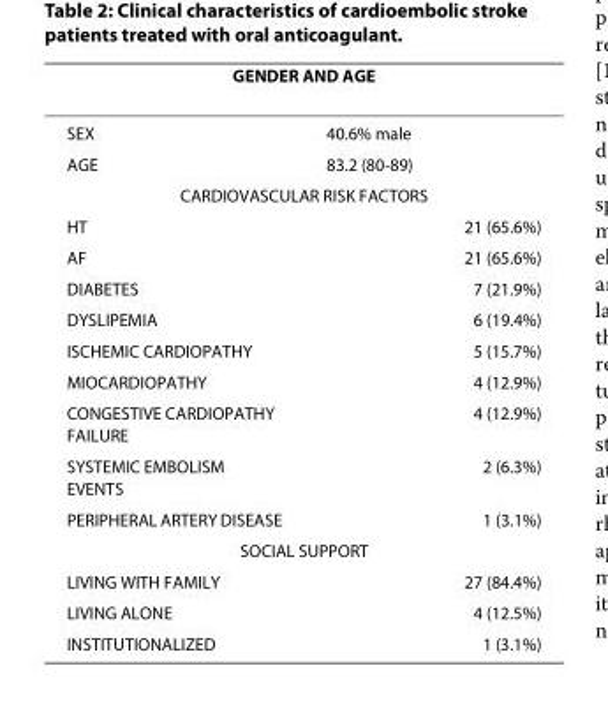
<table><thead><tr><td colspan="2">GENDER AND AGE</td></tr><tr><td>SEX</td><td>40.6% male</td></tr></thead><tbody><tr><td>AGE</td><td>83.2 (80-89)</td></tr><tr><td colspan="2">CARDIOVASCULAR RISK FACTORS</td></tr><tr><td>HT</td><td>21 (65.6%)</td></tr><tr><td>AF</td><td>21 (65.6%)</td></tr><tr><td>DIABETES</td><td>7 (21.9%)</td></tr><tr><td>DYSLIPEMIA</td><td>6 (19.4%)</td></tr><tr><td>ISCHEMIC CARDIOPATHY</td><td>5 (15.7%)</td></tr><tr><td>MIOCARDIOPATHY</td><td>4 (12.9%)</td></tr><tr><td>CONGESTIVE CARDIOPATHY FAILURE</td><td>4 (12.9%)</td></tr><tr><td>SYSTEMIC EMBOLISM EVENTS</td><td>2 (6.3%)</td></tr><tr><td>PERIPHERAL ARTERY DISEASE</td><td>1 (3.1%)</td></tr><tr><td colspan="2">SOCIAL SUPPORT</td></tr><tr><td>LIVING WITH FAMILY</td><td>27 (84.4%)</td></tr><tr><td>LIVING ALONE</td><td>4 (12.5%)</td></tr><tr><td>INSTITUTIONALIZED</td><td>1 (3.1%)</td></tr></tbody></table>